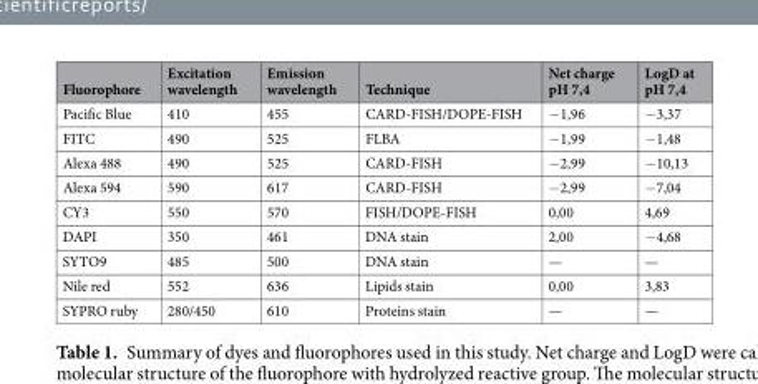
<table><thead><tr><td>Fluorophore</td><td>Excitation wavelength</td><td>Emission wavelength</td><td>Technique</td><td>Net charge pH 7,4</td><td>LogD at pH 7,4</td></tr></thead><tbody><tr><td>Pacific Blue</td><td>410</td><td>455</td><td>CARD-FISH/DOPE-FISH</td><td>−1,96</td><td>−3,37</td></tr><tr><td>FITC</td><td>490</td><td>525</td><td>FLBA</td><td>−1,99</td><td>−1,48</td></tr><tr><td>Alexa 488</td><td>490</td><td>525</td><td>CARD-FISH</td><td>−2,99</td><td>−10,13</td></tr><tr><td>Alexa 594</td><td>590</td><td>617</td><td>CARD-FISH</td><td>−2,99</td><td>−7,04</td></tr><tr><td>CY3</td><td>550</td><td>570</td><td>FISH/DOPE-FISH</td><td>0,00</td><td>4,69</td></tr><tr><td>DAPI</td><td>350</td><td>461</td><td>DNA stain</td><td>2,00</td><td>−4,68</td></tr><tr><td>SYTO9</td><td>485</td><td>500</td><td>DNA stain</td><td>—</td><td>—</td></tr><tr><td>Nile red</td><td>552</td><td>636</td><td>Lipids stain</td><td>0,00</td><td>3,83</td></tr><tr><td>SYPRO ruby</td><td>280/450</td><td>610</td><td>Proteins stain</td><td>—</td><td>—</td></tr></tbody></table>